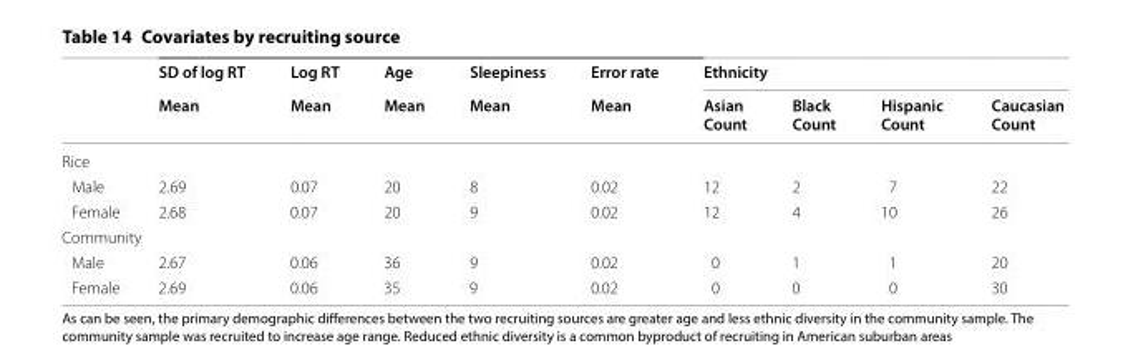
<table><thead><tr><td rowspan="2"></td><td rowspan="2">SD of log RT Mean</td><td rowspan="2">Log RT Mean</td><td rowspan="2">Age Mean</td><td rowspan="2">Sleepiness Mean</td><td rowspan="2">Error rate Mean</td><td colspan="4">Ethnicity</td></tr><tr><td>Asian Count</td><td>Black Count</td><td>Hispanic Count</td><td>Caucasian Count</td></tr></thead><tbody><tr><td colspan="10">Rice</td></tr><tr><td>Male</td><td>2.69</td><td>0.07</td><td>20</td><td>8</td><td>0.02</td><td>12</td><td>2</td><td>7</td><td>22</td></tr><tr><td>Female</td><td>2.68</td><td>0.07</td><td>20</td><td>9</td><td>0.02</td><td>12</td><td>4</td><td>10</td><td>26</td></tr><tr><td colspan="10">Community</td></tr><tr><td>Male</td><td>2.67</td><td>0.06</td><td>36</td><td>9</td><td>0.02</td><td>0</td><td>1</td><td>1</td><td>20</td></tr><tr><td>Female</td><td>2.69</td><td>0.06</td><td>35</td><td>9</td><td>0.02</td><td>0</td><td>0</td><td>0</td><td>30</td></tr></tbody></table>